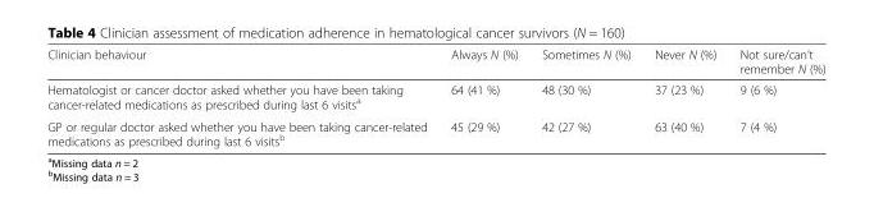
<table><thead><tr><td>Clinician behaviour</td><td>Always N (%)</td><td>Sometimes N (%)</td><td>Never N (%)</td><td>Not sure/can’t remember N (%)</td></tr></thead><tbody><tr><td>Hematologist or cancer doctor asked whether you have been taking cancer-related medications as prescribed during last 6 visits<sup>a</sup></td><td>64 (41 %)</td><td>48 (30 %)</td><td>37 (23 %)</td><td>9 (6 %)</td></tr><tr><td>GP or regular doctor asked whether you have been taking cancer-related medications as prescribed during last 6 visits<sup>b</sup></td><td>45 (29 %)</td><td>42 (27 %)</td><td>63 (40 %)</td><td>7 (4 %)</td></tr></tbody></table>